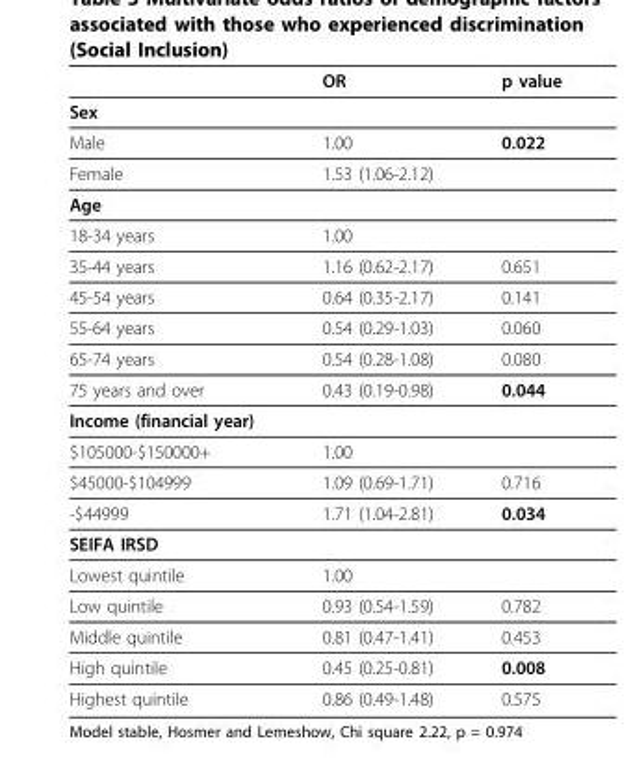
<table><thead><tr><td></td><td>OR</td><td>p value</td></tr></thead><tbody><tr><td colspan="3">Sex</td></tr><tr><td>Male</td><td>1.00</td><td>0.022</td></tr><tr><td>Female</td><td>1.53 (1.06-2.12)</td><td></td></tr><tr><td colspan="3">Age</td></tr><tr><td>18-34 years</td><td>1.00</td><td></td></tr><tr><td>35-44 years</td><td>1.16 (0.62-2.17)</td><td>0.651</td></tr><tr><td>45-54 years</td><td>0.64 (0.35-2.17)</td><td>0.141</td></tr><tr><td>55-64 years</td><td>0.54 (0.29-1.03)</td><td>0.060</td></tr><tr><td>65-74 years</td><td>0.54 (0.28-1.08)</td><td>0.080</td></tr><tr><td>75 years and over</td><td>0.43 (0.19-0.98)</td><td>0.044</td></tr><tr><td colspan="3">Income (financial year)</td></tr><tr><td>$105000-$150000+</td><td>1.00</td><td></td></tr><tr><td>$45000-$104999</td><td>1.09 (0.69-1.71)</td><td>0.716</td></tr><tr><td>-$44999</td><td>1.71 (1.04-2.81)</td><td>0.034</td></tr><tr><td colspan="3">SEIFA IRSD</td></tr><tr><td>Lowest quintile</td><td>1.00</td><td></td></tr><tr><td>Low quintile</td><td>0.93 (0.54-1.59)</td><td>0.782</td></tr><tr><td>Middle quintile</td><td>0.81 (0.47-1.41)</td><td>0.453</td></tr><tr><td>High quintile</td><td>0.45 (0.25-0.81)</td><td>0.008</td></tr><tr><td>Highest quintile</td><td>0.86 (0.49-1.48)</td><td>0.575</td></tr></tbody></table>